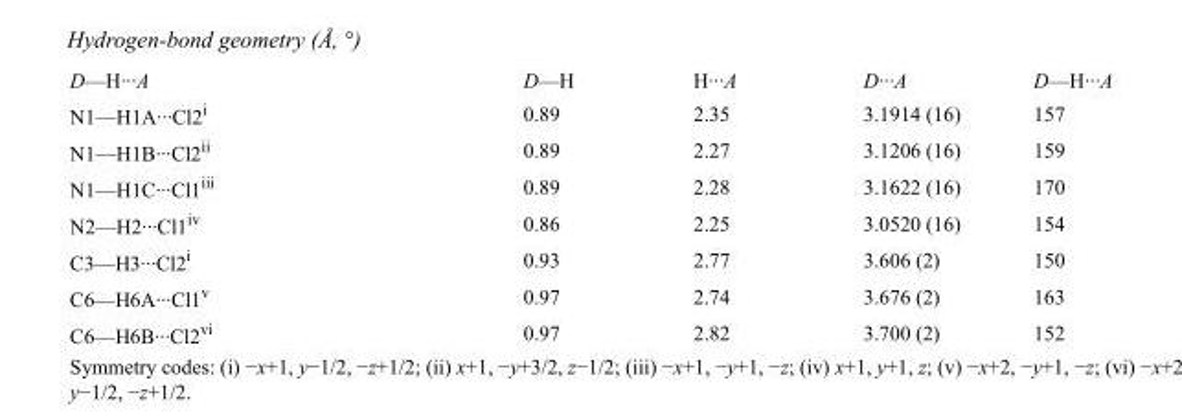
<table><tbody><tr><td>D—H···A</td><td>D—H</td><td>H···A</td><td>D···A</td><td>D—H···A</td></tr><tr><td>N1—H1A···Cl2<sup>i</sup></td><td>0.89</td><td>2.35</td><td>3.1914 (16)</td><td>157</td></tr><tr><td>N1—H1B···Cl2<sup>ii</sup></td><td>0.89</td><td>2.27</td><td>3.1206 (16)</td><td>159</td></tr><tr><td>N1—H1C···Cl1<sup>iii</sup></td><td>0.89</td><td>2.28</td><td>3.1622 (16)</td><td>170</td></tr><tr><td>N2—H2···Cl1<sup>iv</sup></td><td>0.86</td><td>2.25</td><td>3.0520 (16)</td><td>154</td></tr><tr><td>C3—H3···Cl2<sup>i</sup></td><td>0.93</td><td>2.77</td><td>3.606 (2)</td><td>150</td></tr><tr><td>C6—H6A···Cl1<sup>v</sup></td><td>0.97</td><td>2.74</td><td>3.676 (2)</td><td>163</td></tr><tr><td>C6—H6B···Cl2<sup>vi</sup></td><td>0.97</td><td>2.82</td><td>3.700 (2)</td><td>152</td></tr></tbody></table>